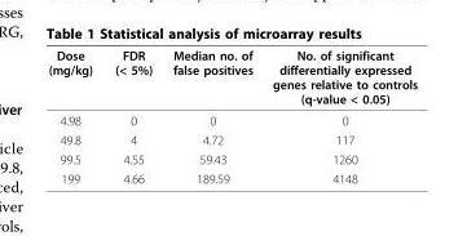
<table><thead><tr><td>Dose (mg/kg)</td><td>FDR (&lt; 5%)</td><td>Median no. of false positives</td><td>No. of significant differentially expressed genes relative to controls (q-value &lt; 0.05)</td></tr></thead><tbody><tr><td>4.98</td><td>0</td><td>0</td><td>0</td></tr><tr><td>49.8</td><td>4</td><td>4.72</td><td>117</td></tr><tr><td>99.5</td><td>4.55</td><td>59.43</td><td>1260</td></tr><tr><td>199</td><td>4.66</td><td>189.59</td><td>4148</td></tr></tbody></table>